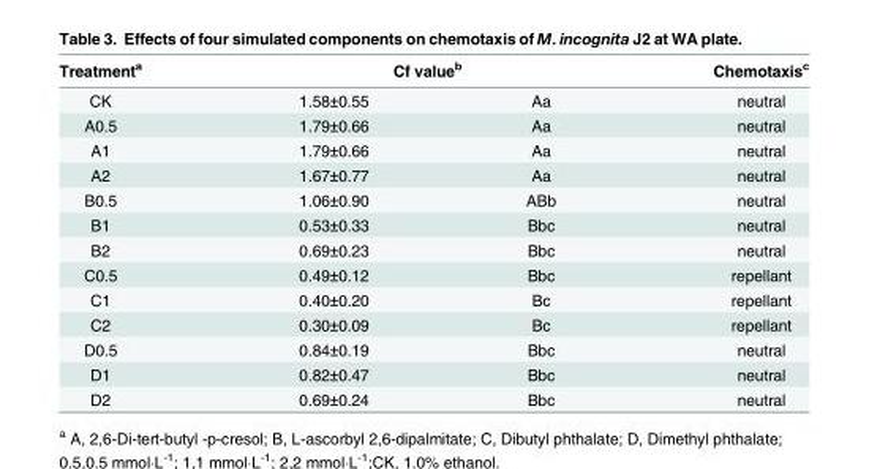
<table><thead><tr><td rowspan="2">Treatment<sup>a</sup> CK</td><td colspan="2">Cf value<sup>b</sup></td><td rowspan="2">Chemotaxis<sup>c</sup> neutral</td></tr><tr><td>1.58±0.55</td><td>Aa</td></tr></thead><tbody><tr><td>A0.5</td><td>1.79±0.66</td><td>Aa</td><td>neutral</td></tr><tr><td>A1</td><td>1.79±0.66</td><td>Aa</td><td>neutral</td></tr><tr><td>A2</td><td>1.67±0.77</td><td>Aa</td><td>neutral</td></tr><tr><td>B0.5</td><td>1.06±0.90</td><td>ABb</td><td>neutral</td></tr><tr><td>B1</td><td>0.53±0.33</td><td>Bbc</td><td>neutral</td></tr><tr><td>B2</td><td>0.69±0.23</td><td>Bbc</td><td>neutral</td></tr><tr><td>C0.5</td><td>0.49±0.12</td><td>Bbc</td><td>repellant</td></tr><tr><td>C1</td><td>0.40±0.20</td><td>Bc</td><td>repellant</td></tr><tr><td>C2</td><td>0.30±0.09</td><td>Bc</td><td>repellant</td></tr><tr><td>D0.5</td><td>0.84±0.19</td><td>Bbc</td><td>neutral</td></tr><tr><td>D1</td><td>0.82±0.47</td><td>Bbc</td><td>neutral</td></tr><tr><td>D2</td><td>0.69±0.24</td><td>Bbc</td><td>neutral</td></tr></tbody></table>